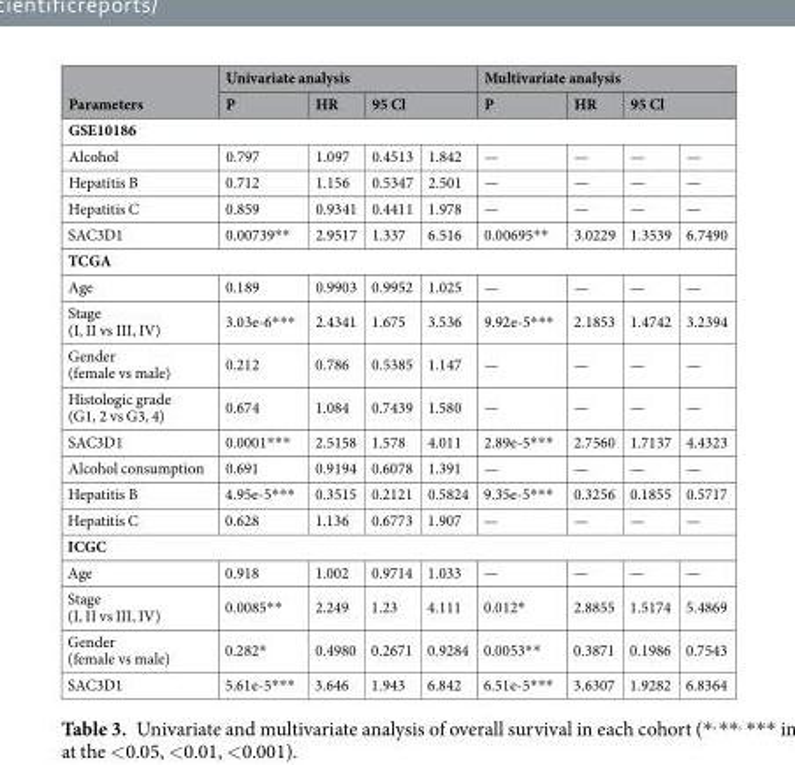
<table><thead><tr><td rowspan="2">Parameters</td><td colspan="4">Univariate analysis</td><td colspan="4">Multivariate analysis</td></tr><tr><td>P</td><td>HR</td><td colspan="2">95 Cl</td><td>P</td><td>HR</td><td colspan="2">95 Cl</td></tr><tr><td colspan="9">GSE10186</td></tr><tr><td>Alcohol</td><td>0.797</td><td>1.097</td><td>0.4513</td><td>1.842</td><td>—</td><td>—</td><td>—</td><td>—</td></tr></thead><tbody><tr><td>Hepatitis B</td><td>0.712</td><td>1.156</td><td>0.5347</td><td>2.501</td><td>—</td><td>—</td><td>—</td><td>—</td></tr><tr><td>Hepatitis C</td><td>0.859</td><td>0.9341</td><td>0.4411</td><td>1.978</td><td>—</td><td>—</td><td>—</td><td>—</td></tr><tr><td>SAC3D1</td><td>0.00739**</td><td>2.9517</td><td>1.337</td><td>6.516</td><td>0.00695**</td><td>3.0229</td><td>1.3539</td><td>6.7490</td></tr><tr><td colspan="9">TCGA</td></tr><tr><td>Age</td><td>0.189</td><td>0.9903</td><td>0.9952</td><td>1.025</td><td>—</td><td>—</td><td>—</td><td>—</td></tr><tr><td>Stage (I, II vs III, IV)</td><td>3.03e-6***</td><td>2.4341</td><td>1.675</td><td>3.536</td><td>9.92e-5***</td><td>2.1853</td><td>1.4742</td><td>3.2394</td></tr><tr><td>Gender (female vs male)</td><td>0.212</td><td>0.786</td><td>0.5385</td><td>1.147</td><td>—</td><td>—</td><td>—</td><td>—</td></tr><tr><td>Histologic grade (G1, 2 vs G3, 4)</td><td>0.674</td><td>1.084</td><td>0.7439</td><td>1.580</td><td>—</td><td>—</td><td>—</td><td>—</td></tr><tr><td>SAC3D1</td><td>0.0001***</td><td>2.5158</td><td>1.578</td><td>4.011</td><td>2.89e-5***</td><td>2.7560</td><td>1.7137</td><td>4.4323</td></tr><tr><td>Alcohol consumption</td><td>0.691</td><td>0.9194</td><td>0.6078</td><td>1.391</td><td>—</td><td>—</td><td>—</td><td>—</td></tr><tr><td>Hepatitis B</td><td>4.95e-5***</td><td>0.3515</td><td>0.2121</td><td>0.5824</td><td>9.35e-5***</td><td>0.3256</td><td>0.1855</td><td>0.5717</td></tr><tr><td>Hepatitis C</td><td>0.628</td><td>1.136</td><td>0.6773</td><td>1.907</td><td>—</td><td>—</td><td>—</td><td>—</td></tr><tr><td colspan="9">ICGC</td></tr><tr><td>Age</td><td>0.918</td><td>1.002</td><td>0.9714</td><td>1.033</td><td>—</td><td>—</td><td>—</td><td>—</td></tr><tr><td>Stage (I, II vs III, IV)</td><td>0.0085**</td><td>2.249</td><td>1.23</td><td>4.111</td><td>0.012*</td><td>2.8855</td><td>1.5174</td><td>5.4869</td></tr><tr><td>Gender (female vs male)</td><td>0.282*</td><td>0.4980</td><td>0.2671</td><td>0.9284</td><td>0.0053**</td><td>0.3871</td><td>0.1986</td><td>0.7543</td></tr><tr><td>SAC3D1</td><td>5.61e-5***</td><td>3.646</td><td>1.943</td><td>6.842</td><td>6.51e-5***</td><td>3.6307</td><td>1.9282</td><td>6.8364</td></tr></tbody></table>